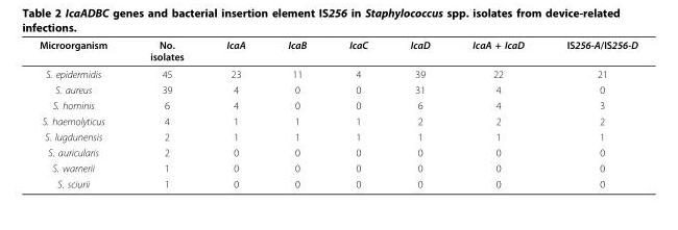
<table><thead><tr><td>Microorganism</td><td>No. isolates</td><td>IcaA</td><td>IcaB</td><td>IcaC</td><td>IcaD</td><td>IcaA + IcaD</td><td>IS256-A/IS256-D</td></tr></thead><tbody><tr><td>S. epidermidis</td><td>45</td><td>23</td><td>11</td><td>4</td><td>39</td><td>22</td><td>21</td></tr><tr><td>S. aureus</td><td>39</td><td>4</td><td>0</td><td>0</td><td>31</td><td>4</td><td>0</td></tr><tr><td>S. hominis</td><td>6</td><td>4</td><td>0</td><td>0</td><td>6</td><td>4</td><td>3</td></tr><tr><td>S. haemolyticus</td><td>4</td><td>1</td><td>1</td><td>1</td><td>2</td><td>2</td><td>2</td></tr><tr><td>S. lugdunensis</td><td>2</td><td>1</td><td>1</td><td>1</td><td>1</td><td>1</td><td>1</td></tr><tr><td>S. auricularis</td><td>2</td><td>0</td><td>0</td><td>0</td><td>0</td><td>0</td><td>0</td></tr><tr><td>S. warnerii</td><td>1</td><td>0</td><td>0</td><td>0</td><td>0</td><td>0</td><td>0</td></tr><tr><td>S. sciurii</td><td>1</td><td>0</td><td>0</td><td>0</td><td>0</td><td>0</td><td>0</td></tr></tbody></table>